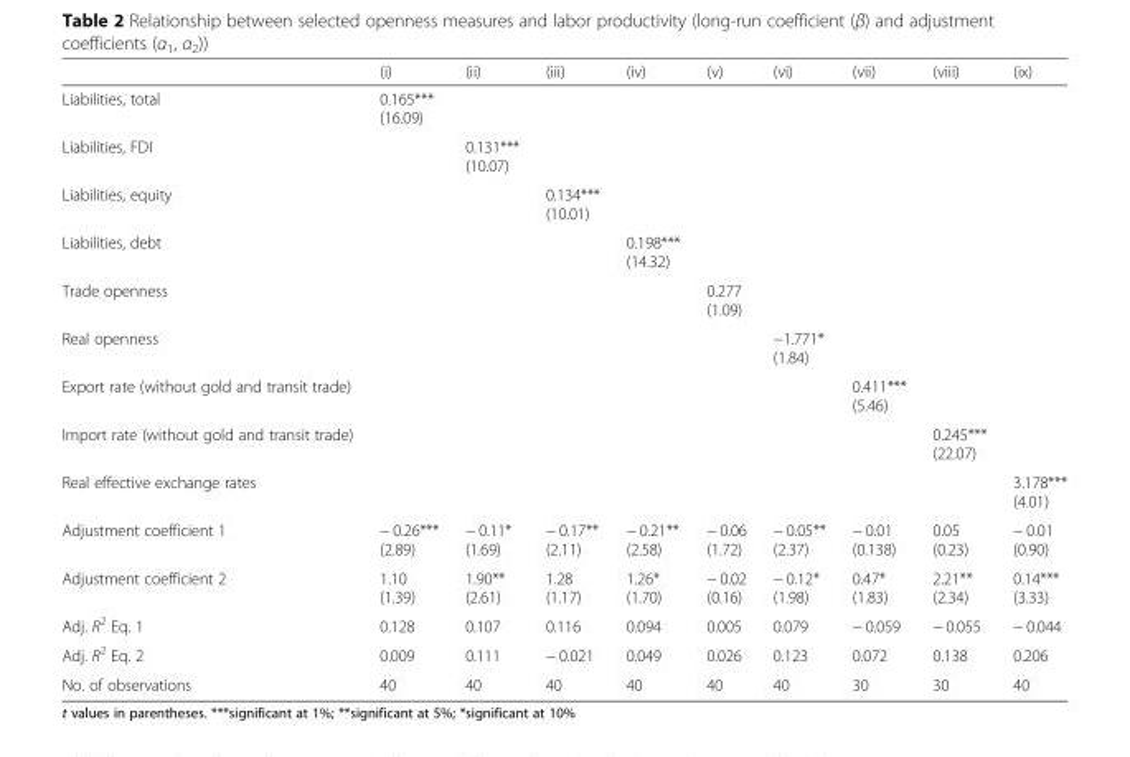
<table><thead><tr><td></td><td>(i)</td><td>(ii)</td><td>(iii)</td><td>(iv)</td><td>(v)</td><td>(vi)</td><td>(vii)</td><td>(viii)</td><td>(ix)</td></tr></thead><tbody><tr><td>Liabilities, total</td><td>0.165*** (16.09)</td><td></td><td></td><td></td><td></td><td></td><td></td><td></td><td></td></tr><tr><td>Liabilities, FDI</td><td></td><td>0.131*** (10.07)</td><td></td><td></td><td></td><td></td><td></td><td></td><td></td></tr><tr><td>Liabilities, equity</td><td></td><td></td><td>0.134*** (10.01)</td><td></td><td></td><td></td><td></td><td></td><td></td></tr><tr><td>Liabilities, debt</td><td></td><td></td><td></td><td>0.198*** (14.32)</td><td></td><td></td><td></td><td></td><td></td></tr><tr><td>Trade openness</td><td></td><td></td><td></td><td></td><td>0.277 (1.09)</td><td></td><td></td><td></td><td></td></tr><tr><td>Real openness</td><td></td><td></td><td></td><td></td><td></td><td>−1.771* (1.84)</td><td></td><td></td><td></td></tr><tr><td>Export rate (without gold and transit trade)</td><td></td><td></td><td></td><td></td><td></td><td></td><td>0.411*** (5.46)</td><td></td><td></td></tr><tr><td>Import rate (without gold and transit trade)</td><td></td><td></td><td></td><td></td><td></td><td></td><td></td><td>0.245*** (22.07)</td><td></td></tr><tr><td>Real effective exchange rates</td><td></td><td></td><td></td><td></td><td></td><td></td><td></td><td></td><td>3.178*** (4.01)</td></tr><tr><td>Adjustment coefficient 1</td><td>− 0.26*** (2.89)</td><td>− 0.11* (1.69)</td><td>− 0.17** (2.11)</td><td>− 0.21** (2.58)</td><td>− 0.06 (1.72)</td><td>− 0.05** (2.37)</td><td>− 0.01 (0.138)</td><td>0.05 (0.23)</td><td>− 0.01 (0.90)</td></tr><tr><td>Adjustment coefficient 2</td><td>1.10 (1.39)</td><td>1.90** (2.61)</td><td>1.28 (1.17)</td><td>1.26* (1.70)</td><td>− 0.02 (0.16)</td><td>− 0.12* (1.98)</td><td>0.47* (1.83)</td><td>2.21** (2.34)</td><td>0.14*** (3.33)</td></tr><tr><td>Adj. R<sup>2</sup> Eq. 1</td><td>0.128</td><td>0.107</td><td>0.116</td><td>0.094</td><td>0.005</td><td>0.079</td><td>− 0.059</td><td>− 0.055</td><td>− 0.044</td></tr><tr><td>Adj. R<sup>2</sup> Eq. 2</td><td>0.009</td><td>0.111</td><td>− 0.021</td><td>0.049</td><td>0.026</td><td>0.123</td><td>0.072</td><td>0.138</td><td>0.206</td></tr><tr><td>No. of observations</td><td>40</td><td>40</td><td>40</td><td>40</td><td>40</td><td>40</td><td>30</td><td>30</td><td>40</td></tr></tbody></table>